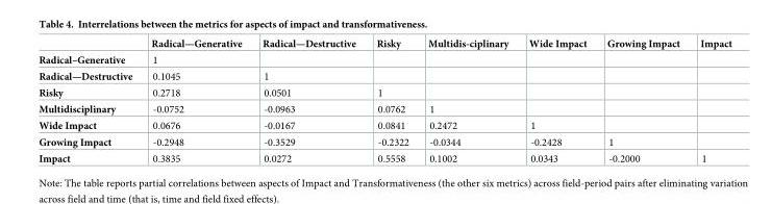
<table><thead><tr><td></td><td>Radical—Generative</td><td>Radical—Destructive</td><td>Risky</td><td>Multidis-ciplinary</td><td>Wide Impact</td><td>Growing Impact</td><td>Impact</td></tr></thead><tbody><tr><td>Radical–Generative</td><td>1</td><td></td><td></td><td></td><td></td><td></td><td></td></tr><tr><td>Radical—Destructive</td><td>0.1045</td><td>1</td><td></td><td></td><td></td><td></td><td></td></tr><tr><td>Risky</td><td>0.2718</td><td>0.0501</td><td>1</td><td></td><td></td><td></td><td></td></tr><tr><td>Multidisciplinary</td><td>-0.0752</td><td>-0.0963</td><td>0.0762</td><td>1</td><td></td><td></td><td></td></tr><tr><td>Wide Impact</td><td>0.0676</td><td>-0.0167</td><td>0.0841</td><td>0.2472</td><td>1</td><td></td><td></td></tr><tr><td>Growing Impact</td><td>-0.2948</td><td>-0.3529</td><td>-0.2322</td><td>-0.0344</td><td>-0.2428</td><td>1</td><td></td></tr><tr><td>Impact</td><td>0.3835</td><td>0.0272</td><td>0.5558</td><td>0.1002</td><td>0.0343</td><td>-0.2000</td><td>1</td></tr></tbody></table>